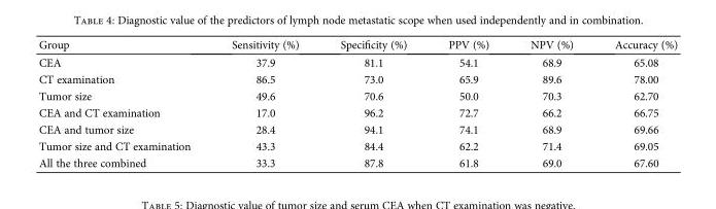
<table><thead><tr><td>Group</td><td>Sensitivity (%)</td><td>Specificity (%)</td><td>PPV (%)</td><td>NPV (%)</td><td>Accuracy (%)</td></tr></thead><tbody><tr><td>CEA</td><td>37.9</td><td>81.1</td><td>54.1</td><td>68.9</td><td>65.08</td></tr><tr><td>CT examination</td><td>86.5</td><td>73.0</td><td>65.9</td><td>89.6</td><td>78.00</td></tr><tr><td>Tumor size</td><td>49.6</td><td>70.6</td><td>50.0</td><td>70.3</td><td>62.70</td></tr><tr><td>CEA and CT examination</td><td>17.0</td><td>96.2</td><td>72.7</td><td>66.2</td><td>66.75</td></tr><tr><td>CEA and tumor size</td><td>28.4</td><td>94.1</td><td>74.1</td><td>68.9</td><td>69.66</td></tr><tr><td>Tumor size and CT examination</td><td>43.3</td><td>84.4</td><td>62.2</td><td>71.4</td><td>69.05</td></tr><tr><td>All the three combined</td><td>33.3</td><td>87.8</td><td>61.8</td><td>69.0</td><td>67.60</td></tr></tbody></table>